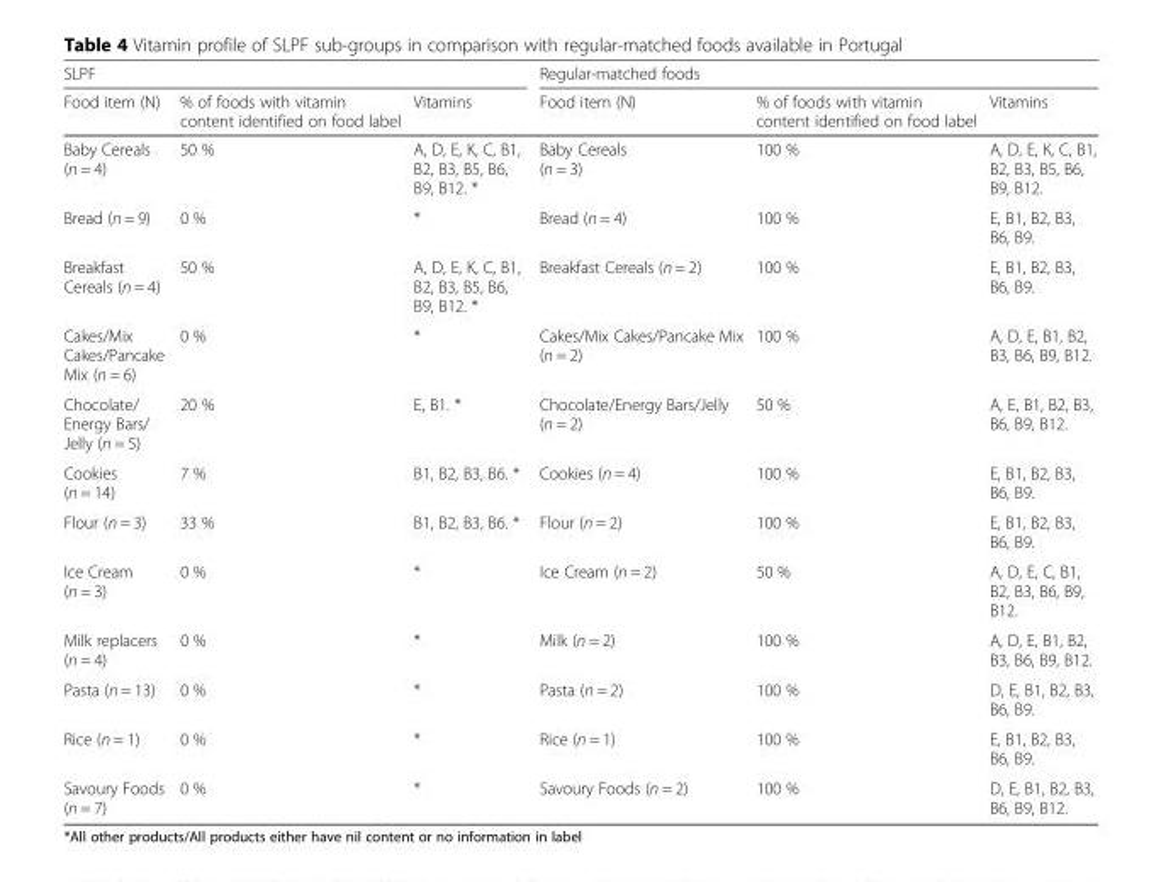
<table><thead><tr><td colspan="3">SLPF</td><td colspan="3">Regular-matched foods</td></tr><tr><td>Food item (N)</td><td>% of foods with vitamin content identified on food label</td><td>Vitamins</td><td>Food item (N)</td><td>% of foods with vitamin content identified on food label</td><td>Vitamins</td></tr></thead><tbody><tr><td>Baby Cereals (n = 4)</td><td>50 %</td><td>A, D, E, K, C, B1, B2, B3, B5, B6, B9, B12. *</td><td>Baby Cereals (n = 3)</td><td>100 %</td><td>A, D, E, K, C, B1, B2, B3, B5, B6, B9, B12.</td></tr><tr><td>Bread (n = 9)</td><td>0 %</td><td>*</td><td>Bread (n = 4)</td><td>100 %</td><td>E, B1, B2, B3, B6, B9.</td></tr><tr><td>Breakfast Cereals (n = 4)</td><td>50 %</td><td>A, D, E, K, C, B1, B2, B3, B5, B6, B9, B12. *</td><td>Breakfast Cereals (n = 2)</td><td>100 %</td><td>E, B1, B2, B3, B6, B9.</td></tr><tr><td>Cakes/Mix Cakes/Pancake Mix (n = 6)</td><td>0 %</td><td>*</td><td>Cakes/Mix Cakes/Pancake Mix (n = 2)</td><td>100 %</td><td>A, D, E, B1, B2, B3, B6, B9, B12.</td></tr><tr><td>Chocolate/ Energy Bars/ Jelly (n = 5)</td><td>20 %</td><td>E, B1. *</td><td>Chocolate/Energy Bars/Jelly (n = 2)</td><td>50 %</td><td>A, E, B1, B2, B3, B6, B9, B12.</td></tr><tr><td>Cookies (n = 14)</td><td>7 %</td><td>B1, B2, B3, B6. *</td><td>Cookies (n = 4)</td><td>100 %</td><td>E, B1, B2, B3, B6, B9.</td></tr><tr><td>Flour (n = 3)</td><td>33 %</td><td>B1, B2, B3, B6. *</td><td>Flour (n = 2)</td><td>100 %</td><td>E, B1, B2, B3, B6, B9.</td></tr><tr><td>Ice Cream (n = 3)</td><td>0 %</td><td>*</td><td>Ice Cream (n = 2)</td><td>50 %</td><td>A, D, E, C, B1, B2, B3, B6, B9, B12.</td></tr><tr><td>Milk replacers (n = 4)</td><td>0 %</td><td>*</td><td>Milk (n = 2)</td><td>100 %</td><td>A, D, E, B1, B2, B3, B6, B9, B12.</td></tr><tr><td>Pasta (n = 13)</td><td>0 %</td><td>*</td><td>Pasta (n = 2)</td><td>100 %</td><td>D, E, B1, B2, B3, B6, B9.</td></tr><tr><td>Rice (n = 1)</td><td>0 %</td><td>*</td><td>Rice (n = 1)</td><td>100 %</td><td>E, B1, B2, B3, B6, B9.</td></tr><tr><td>Savoury Foods (n = 7)</td><td>0 %</td><td>*</td><td>Savoury Foods (n = 2)</td><td>100 %</td><td>D, E, B1, B2, B3, B6, B9, B12.</td></tr></tbody></table>